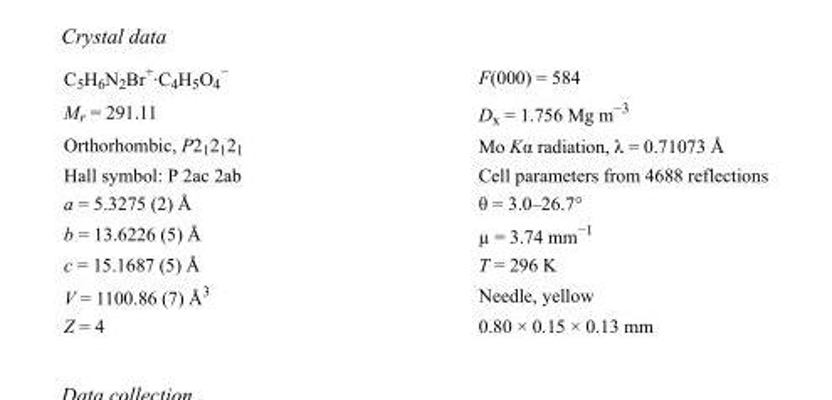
<table><tbody><tr><td>C<sub>5</sub>H<sub>6</sub>N<sub>2</sub>Br<sup>+</sup>·C<sub>4</sub>H<sub>5</sub>O<sub>4</sub> <sup>−</sup></td><td>F(000) = 584</td></tr><tr><td>M<sub>r</sub> = 291.11</td><td>D<sub>x</sub> = 1.756 Mg m<sup>−3</sup></td></tr><tr><td>Orthorhombic, P2<sub>1</sub>2<sub>1</sub>2<sub>1</sub></td><td>Mo Kα radiation, λ = 0.71073 Å</td></tr><tr><td>Hall symbol: P 2ac 2ab</td><td>Cell parameters from 4688 reflections</td></tr><tr><td>a = 5.3275 (2) Å</td><td>θ = 3.0–26.7°</td></tr><tr><td>b = 13.6226 (5) Å</td><td>µ = 3.74 mm<sup>−1</sup></td></tr><tr><td>c = 15.1687 (5) Å</td><td>T = 296 K</td></tr><tr><td>V = 1100.86 (7) Å<sup>3</sup></td><td>Needle, yellow</td></tr><tr><td>Z = 4</td><td>0.80 × 0.15 × 0.13 mm</td></tr></tbody></table>